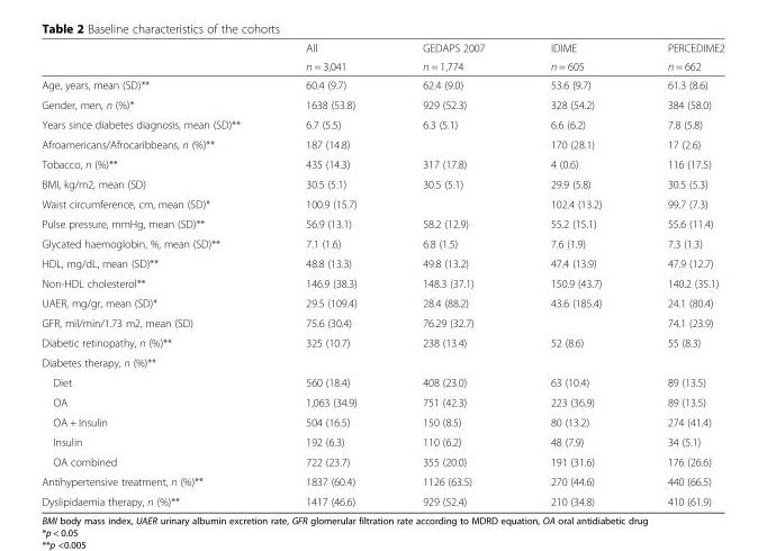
<table><thead><tr><td rowspan="2"></td><td rowspan="2">All n = 3,041</td><td rowspan="2">GEDAPS 2007 n = 1,774</td><td rowspan="2">IDIME n = 605</td><td rowspan="2">PERCEDIME2 n = 662</td></tr><tr></tr></thead><tbody><tr><td>Age, years, mean (SD)**</td><td>60.4 (9.7)</td><td>62.4 (9.0)</td><td>53.6 (9.7)</td><td>61.3 (8.6)</td></tr><tr><td>Gender, men, n (%)*</td><td>1638 (53.8)</td><td>929 (52.3)</td><td>328 (54.2)</td><td>384 (58.0)</td></tr><tr><td>Years since diabetes diagnosis, mean (SD)**</td><td>6.7 (5.5)</td><td>6.3 (5.1)</td><td>6.6 (6.2)</td><td>7.8 (5.8)</td></tr><tr><td>Afroamericans/Afrocaribbeans, n (%)**</td><td>187 (14.8)</td><td></td><td>170 (28.1)</td><td>17 (2.6)</td></tr><tr><td>Tobacco, n (%)**</td><td>435 (14.3)</td><td>317 (17.8)</td><td>4 (0.6)</td><td>116 (17.5)</td></tr><tr><td>BMI, kg/m2, mean (SD)</td><td>30.5 (5.1)</td><td>30.5 (5.1)</td><td>29.9 (5.8)</td><td>30.5 (5.3)</td></tr><tr><td>Waist circumference, cm, mean (SD)*</td><td>100.9 (15.7)</td><td></td><td>102.4 (13.2)</td><td>99.7 (7.3)</td></tr><tr><td>Pulse pressure, mmHg, mean (SD)**</td><td>56.9 (13.1)</td><td>58.2 (12.9)</td><td>55.2 (15.1)</td><td>55.6 (11.4)</td></tr><tr><td>Glycated haemoglobin, %, mean (SD)**</td><td>7.1 (1.6)</td><td>6.8 (1.5)</td><td>7.6 (1.9)</td><td>7.3 (1.3)</td></tr><tr><td>HDL, mg/dL, mean (SD)**</td><td>48.8 (13.3)</td><td>49.8 (13.2)</td><td>47.4 (13.9)</td><td>47.9 (12.7)</td></tr><tr><td>Non-HDL cholesterol**</td><td>146.9 (38.3)</td><td>148.3 (37.1)</td><td>150.9 (43.7)</td><td>140.2 (35.1)</td></tr><tr><td>UAER, mg/gr, mean (SD)*</td><td>29.5 (109.4)</td><td>28.4 (88.2)</td><td>43.6 (185.4)</td><td>24.1 (80.4)</td></tr><tr><td>GFR, mil/min/1.73 m2, mean (SD)</td><td>75.6 (30.4)</td><td>76.29 (32.7)</td><td></td><td>74.1 (23.9)</td></tr><tr><td>Diabetic retinopathy, n (%)**</td><td>325 (10.7)</td><td>238 (13.4)</td><td>52 (8.6)</td><td>55 (8.3)</td></tr><tr><td colspan="5">Diabetes therapy, n (%)**</td></tr><tr><td>Diet</td><td>560 (18.4)</td><td>408 (23.0)</td><td>63 (10.4)</td><td>89 (13.5)</td></tr><tr><td>OA</td><td>1,063 (34.9)</td><td>751 (42.3)</td><td>223 (36.9)</td><td>89 (13.5)</td></tr><tr><td>OA + Insulin</td><td>504 (16.5)</td><td>150 (8.5)</td><td>80 (13.2)</td><td>274 (41.4)</td></tr><tr><td>Insulin</td><td>192 (6.3)</td><td>110 (6.2)</td><td>48 (7.9)</td><td>34 (5.1)</td></tr><tr><td>OA combined</td><td>722 (23.7)</td><td>355 (20.0)</td><td>191 (31.6)</td><td>176 (26.6)</td></tr><tr><td>Antihypertensive treatment, n (%)**</td><td>1837 (60.4)</td><td>1126 (63.5)</td><td>270 (44.6)</td><td>440 (66.5)</td></tr><tr><td>Dyslipidaemia therapy, n (%)**</td><td>1417 (46.6)</td><td>929 (52.4)</td><td>210 (34.8)</td><td>410 (61.9)</td></tr></tbody></table>